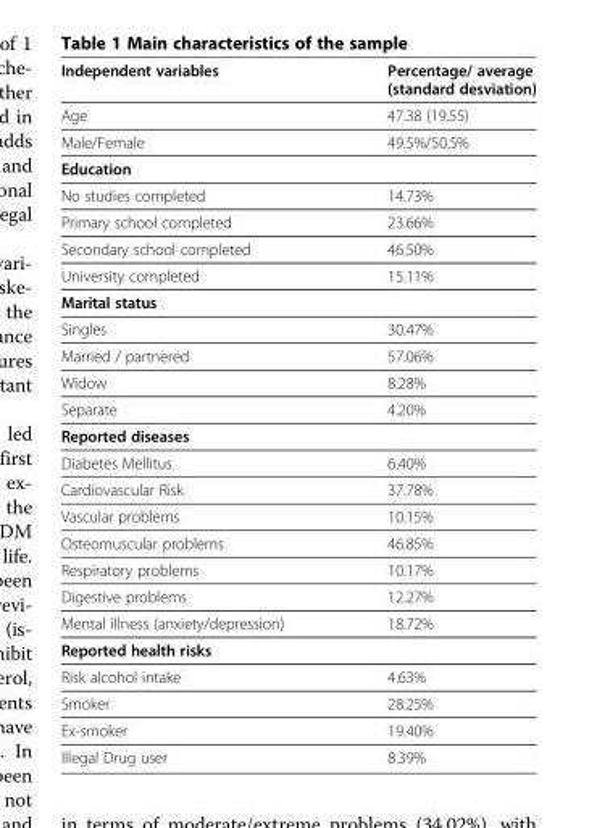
<table><thead><tr><td>Independent variables</td><td>Percentage/ average (standard desviation)</td></tr></thead><tbody><tr><td>Age</td><td>47.38 (19.55)</td></tr><tr><td>Male/Female</td><td>49.5%/50.5%</td></tr><tr><td colspan="2">Education</td></tr><tr><td>No studies completed</td><td>14.73%</td></tr><tr><td>Primary school completed</td><td>23.66%</td></tr><tr><td>Secondary school completed</td><td>46.50%</td></tr><tr><td>University completed</td><td>15.11%</td></tr><tr><td colspan="2">Marital status</td></tr><tr><td>Singles</td><td>30.47%</td></tr><tr><td>Married / partnered</td><td>57.06%</td></tr><tr><td>Widow</td><td>8.28%</td></tr><tr><td>Separate</td><td>4.20%</td></tr><tr><td colspan="2">Reported diseases</td></tr><tr><td>Diabetes Mellitus</td><td>6.40%</td></tr><tr><td>Cardiovascular Risk</td><td>37.78%</td></tr><tr><td>Vascular problems</td><td>10.15%</td></tr><tr><td>Osteomuscular problems</td><td>46.85%</td></tr><tr><td>Respiratory problems</td><td>10.17%</td></tr><tr><td>Digestive problems</td><td>12.27%</td></tr><tr><td>Mental illness (anxiety/depression)</td><td>18.72%</td></tr><tr><td colspan="2">Reported health risks</td></tr><tr><td>Risk alcohol intake</td><td>4.63%</td></tr><tr><td>Smoker</td><td>28.25%</td></tr><tr><td>Ex-smoker</td><td>19.40%</td></tr><tr><td>lllegal Drug user</td><td>8.39%</td></tr></tbody></table>